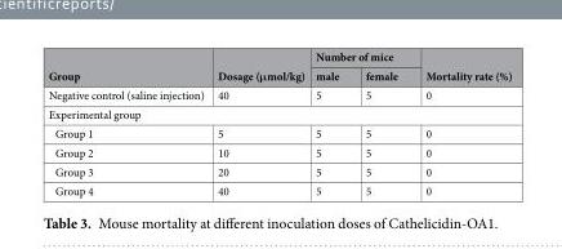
<table><thead><tr><td rowspan="2">Group</td><td rowspan="2">Dosage (μmol/kg)</td><td colspan="2">Number of mice</td><td rowspan="2">Mortality rate (%)</td></tr><tr><td>male</td><td>female</td></tr></thead><tbody><tr><td>Negative control (saline injection)</td><td>40</td><td>5</td><td>5</td><td>0</td></tr><tr><td colspan="5">Experimental group</td></tr><tr><td>Group 1</td><td>5</td><td>5</td><td>5</td><td>0</td></tr><tr><td>Group 2</td><td>10</td><td>5</td><td>5</td><td>0</td></tr><tr><td>Group 3</td><td>20</td><td>5</td><td>5</td><td>0</td></tr><tr><td>Group 4</td><td>40</td><td>5</td><td>5</td><td>0</td></tr></tbody></table>